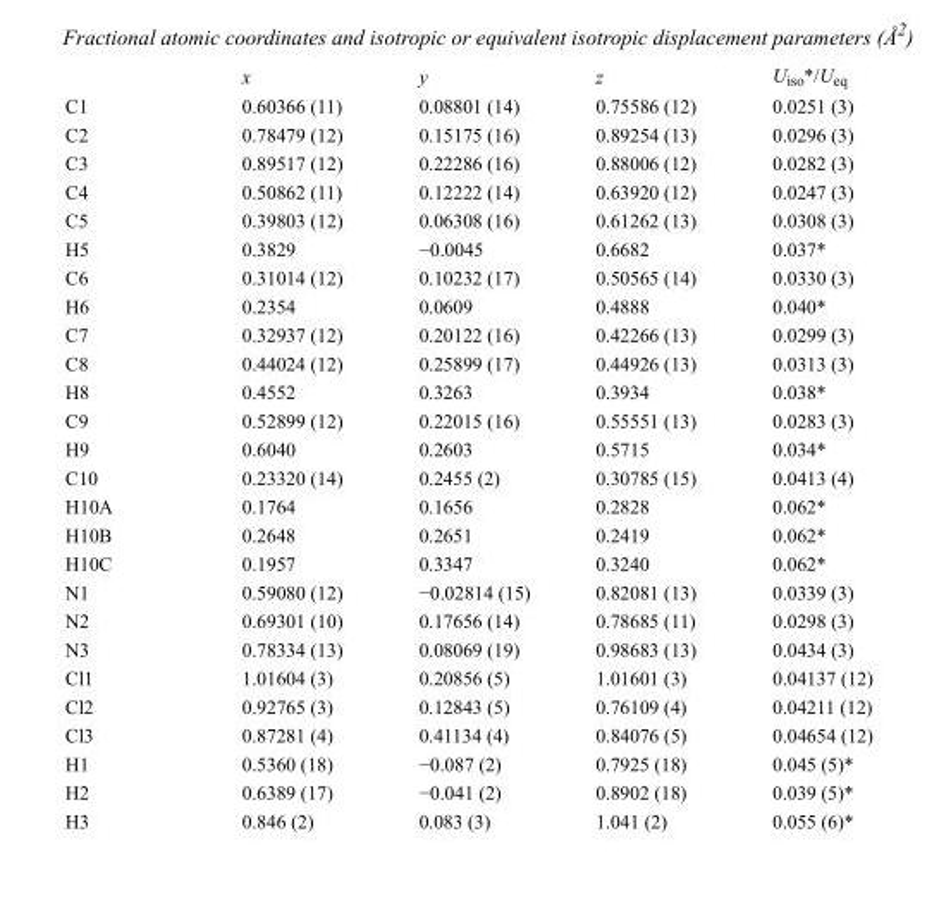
<table><thead><tr><td></td><td>x</td><td>y</td><td>z</td><td>U<sub>iso</sub>*/U<sub>eq</sub></td></tr></thead><tbody><tr><td>C1</td><td>0.60366 (11)</td><td>0.08801 (14)</td><td>0.75586 (12)</td><td>0.0251 (3)</td></tr><tr><td>C2</td><td>0.78479 (12)</td><td>0.15175 (16)</td><td>0.89254 (13)</td><td>0.0296 (3)</td></tr><tr><td>C3</td><td>0.89517 (12)</td><td>0.22286 (16)</td><td>0.88006 (12)</td><td>0.0282 (3)</td></tr><tr><td>C4</td><td>0.50862 (11)</td><td>0.12222 (14)</td><td>0.63920 (12)</td><td>0.0247 (3)</td></tr><tr><td>C5</td><td>0.39803 (12)</td><td>0.06308 (16)</td><td>0.61262 (13)</td><td>0.0308 (3)</td></tr><tr><td>H5</td><td>0.3829</td><td>−0.0045</td><td>0.6682</td><td>0.037*</td></tr><tr><td>C6</td><td>0.31014 (12)</td><td>0.10232 (17)</td><td>0.50565 (14)</td><td>0.0330 (3)</td></tr><tr><td>H6</td><td>0.2354</td><td>0.0609</td><td>0.4888</td><td>0.040*</td></tr><tr><td>C7</td><td>0.32937 (12)</td><td>0.20122 (16)</td><td>0.42266 (13)</td><td>0.0299 (3)</td></tr><tr><td>C8</td><td>0.44024 (12)</td><td>0.25899 (17)</td><td>0.44926 (13)</td><td>0.0313 (3)</td></tr><tr><td>H8</td><td>0.4552</td><td>0.3263</td><td>0.3934</td><td>0.038*</td></tr><tr><td>C9</td><td>0.52899 (12)</td><td>0.22015 (16)</td><td>0.55551 (13)</td><td>0.0283 (3)</td></tr><tr><td>H9</td><td>0.6040</td><td>0.2603</td><td>0.5715</td><td>0.034*</td></tr><tr><td>C10</td><td>0.23320 (14)</td><td>0.2455 (2)</td><td>0.30785 (15)</td><td>0.0413 (4)</td></tr><tr><td>H10A</td><td>0.1764</td><td>0.1656</td><td>0.2828</td><td>0.062*</td></tr><tr><td>H10B</td><td>0.2648</td><td>0.2651</td><td>0.2419</td><td>0.062*</td></tr><tr><td>H10C</td><td>0.1957</td><td>0.3347</td><td>0.3240</td><td>0.062*</td></tr><tr><td>N1</td><td>0.59080 (12)</td><td>−0.02814 (15)</td><td>0.82081 (13)</td><td>0.0339 (3)</td></tr><tr><td>N2</td><td>0.69301 (10)</td><td>0.17656 (14)</td><td>0.78685 (11)</td><td>0.0298 (3)</td></tr><tr><td>N3</td><td>0.78334 (13)</td><td>0.08069 (19)</td><td>0.98683 (13)</td><td>0.0434 (3)</td></tr><tr><td>Cl1</td><td>1.01604 (3)</td><td>0.20856 (5)</td><td>1.01601 (3)</td><td>0.04137 (12)</td></tr><tr><td>Cl2</td><td>0.92765 (3)</td><td>0.12843 (5)</td><td>0.76109 (4)</td><td>0.04211 (12)</td></tr><tr><td>Cl3</td><td>0.87281 (4)</td><td>0.41134 (4)</td><td>0.84076 (5)</td><td>0.04654 (12)</td></tr><tr><td>H1</td><td>0.5360 (18)</td><td>−0.087 (2)</td><td>0.7925 (18)</td><td>0.045 (5)*</td></tr><tr><td>H2</td><td>0.6389 (17)</td><td>−0.041 (2)</td><td>0.8902 (18)</td><td>0.039 (5)*</td></tr><tr><td>H3</td><td>0.846 (2)</td><td>0.083 (3)</td><td>1.041 (2)</td><td>0.055 (6)*</td></tr></tbody></table>